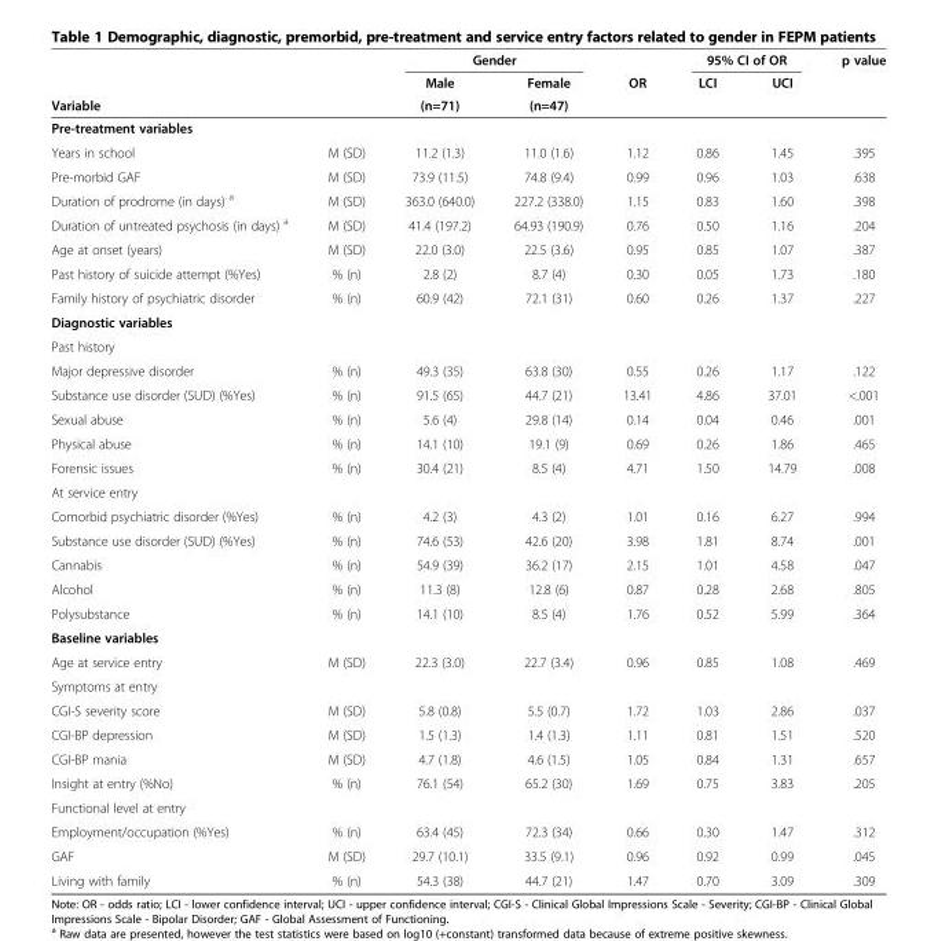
<table><thead><tr><td rowspan="2"></td><td rowspan="2"></td><td colspan="2">Gender</td><td rowspan="3">OR</td><td colspan="2">95% CI of OR</td><td rowspan="3">p value</td></tr><tr><td rowspan="2">Male (n=71)</td><td rowspan="2">Female (n=47)</td><td rowspan="2">LCI</td><td rowspan="2">UCI</td></tr><tr><td colspan="2">Variable</td></tr></thead><tbody><tr><td colspan="8">Pre-treatment variables</td></tr><tr><td>Years in school</td><td>M (SD)</td><td>11.2 (1.3)</td><td>11.0 (1.6)</td><td>1.12</td><td>0.86</td><td>1.45</td><td>.395</td></tr><tr><td>Pre-morbid GAF</td><td>M (SD)</td><td>73.9 (11.5)</td><td>74.8 (9.4)</td><td>0.99</td><td>0.96</td><td>1.03</td><td>.638</td></tr><tr><td>Duration of prodrome (in days) <sup>a</sup></td><td>M (SD)</td><td>363.0 (640.0)</td><td>227.2 (338.0)</td><td>1.15</td><td>0.83</td><td>1.60</td><td>.398</td></tr><tr><td>Duration of untreated psychosis (in days) <sup>a</sup></td><td>M (SD)</td><td>41.4 (197.2)</td><td>64.93 (190.9)</td><td>0.76</td><td>0.50</td><td>1.16</td><td>.204</td></tr><tr><td>Age at onset (years)</td><td>M (SD)</td><td>22.0 (3.0)</td><td>22.5 (3.6)</td><td>0.95</td><td>0.85</td><td>1.07</td><td>.387</td></tr><tr><td>Past history of suicide attempt (%Yes)</td><td>% (n)</td><td>2.8 (2)</td><td>8.7 (4)</td><td>0.30</td><td>0.05</td><td>1.73</td><td>.180</td></tr><tr><td>Family history of psychiatric disorder</td><td>% (n)</td><td>60.9 (42)</td><td>72.1 (31)</td><td>0.60</td><td>0.26</td><td>1.37</td><td>.227</td></tr><tr><td colspan="8">Diagnostic variables</td></tr><tr><td colspan="8">Past history</td></tr><tr><td>Major depressive disorder</td><td>% (n)</td><td>49.3 (35)</td><td>63.8 (30)</td><td>0.55</td><td>0.26</td><td>1.17</td><td>.122</td></tr><tr><td>Substance use disorder (SUD) (%Yes)</td><td>% (n)</td><td>91.5 (65)</td><td>44.7 (21)</td><td>13.41</td><td>4.86</td><td>37.01</td><td>&lt;.001</td></tr><tr><td>Sexual abuse</td><td>% (n)</td><td>5.6 (4)</td><td>29.8 (14)</td><td>0.14</td><td>0.04</td><td>0.46</td><td>.001</td></tr><tr><td>Physical abuse</td><td>% (n)</td><td>14.1 (10)</td><td>19.1 (9)</td><td>0.69</td><td>0.26</td><td>1.86</td><td>.465</td></tr><tr><td>Forensic issues</td><td>% (n)</td><td>30.4 (21)</td><td>8.5 (4)</td><td>4.71</td><td>1.50</td><td>14.79</td><td>.008</td></tr><tr><td colspan="8">At service entry</td></tr><tr><td>Comorbid psychiatric disorder (%Yes)</td><td>% (n)</td><td>4.2 (3)</td><td>4.3 (2)</td><td>1.01</td><td>0.16</td><td>6.27</td><td>.994</td></tr><tr><td>Substance use disorder (SUD) (%Yes)</td><td>% (n)</td><td>74.6 (53)</td><td>42.6 (20)</td><td>3.98</td><td>1.81</td><td>8.74</td><td>.001</td></tr><tr><td>Cannabis</td><td>% (n)</td><td>54.9 (39)</td><td>36.2 (17)</td><td>2.15</td><td>1.01</td><td>4.58</td><td>.047</td></tr><tr><td>Alcohol</td><td>% (n)</td><td>11.3 (8)</td><td>12.8 (6)</td><td>0.87</td><td>0.28</td><td>2.68</td><td>.805</td></tr><tr><td>Polysubstance</td><td>% (n)</td><td>14.1 (10)</td><td>8.5 (4)</td><td>1.76</td><td>0.52</td><td>5.99</td><td>.364</td></tr><tr><td colspan="8">Baseline variables</td></tr><tr><td>Age at service entry</td><td>M (SD)</td><td>22.3 (3.0)</td><td>22.7 (3.4)</td><td>0.96</td><td>0.85</td><td>1.08</td><td>.469</td></tr><tr><td colspan="8">Symptoms at entry</td></tr><tr><td>CGI-S severity score</td><td>M (SD)</td><td>5.8 (0.8)</td><td>5.5 (0.7)</td><td>1.72</td><td>1.03</td><td>2.86</td><td>.037</td></tr><tr><td>CGI-BP depression</td><td>M (SD)</td><td>1.5 (1.3)</td><td>1.4 (1.3)</td><td>1.11</td><td>0.81</td><td>1.51</td><td>.520</td></tr><tr><td>CGI-BP mania</td><td>M (SD)</td><td>4.7 (1.8)</td><td>4.6 (1.5)</td><td>1.05</td><td>0.84</td><td>1.31</td><td>.657</td></tr><tr><td>Insight at entry (%No)</td><td>% (n)</td><td>76.1 (54)</td><td>65.2 (30)</td><td>1.69</td><td>0.75</td><td>3.83</td><td>.205</td></tr><tr><td colspan="8">Functional level at entry</td></tr><tr><td>Employment/occupation (%Yes)</td><td>% (n)</td><td>63.4 (45)</td><td>72.3 (34)</td><td>0.66</td><td>0.30</td><td>1.47</td><td>.312</td></tr><tr><td>GAF</td><td>M (SD)</td><td>29.7 (10.1)</td><td>33.5 (9.1)</td><td>0.96</td><td>0.92</td><td>0.99</td><td>.045</td></tr><tr><td>Living with family</td><td>% (n)</td><td>54.3 (38)</td><td>44.7 (21)</td><td>1.47</td><td>0.70</td><td>3.09</td><td>.309</td></tr></tbody></table>